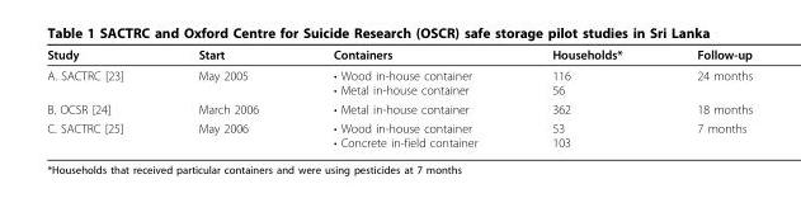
<table><thead><tr><td>Study</td><td>Start</td><td>Containers</td><td>Households*</td><td>Follow-up</td></tr></thead><tbody><tr><td>A. SACTRC [23]</td><td>May 2005</td><td>• Wood in-house container • Metal in-house container</td><td>116 56</td><td>24 months</td></tr><tr><td>B. OCSR [24]</td><td>March 2006</td><td>• Metal in-house container</td><td>362</td><td>18 months</td></tr><tr><td>C. SACTRC [25]</td><td>May 2006</td><td>• Wood in-house container • Concrete in-field container</td><td>53 103</td><td>7 months</td></tr></tbody></table>